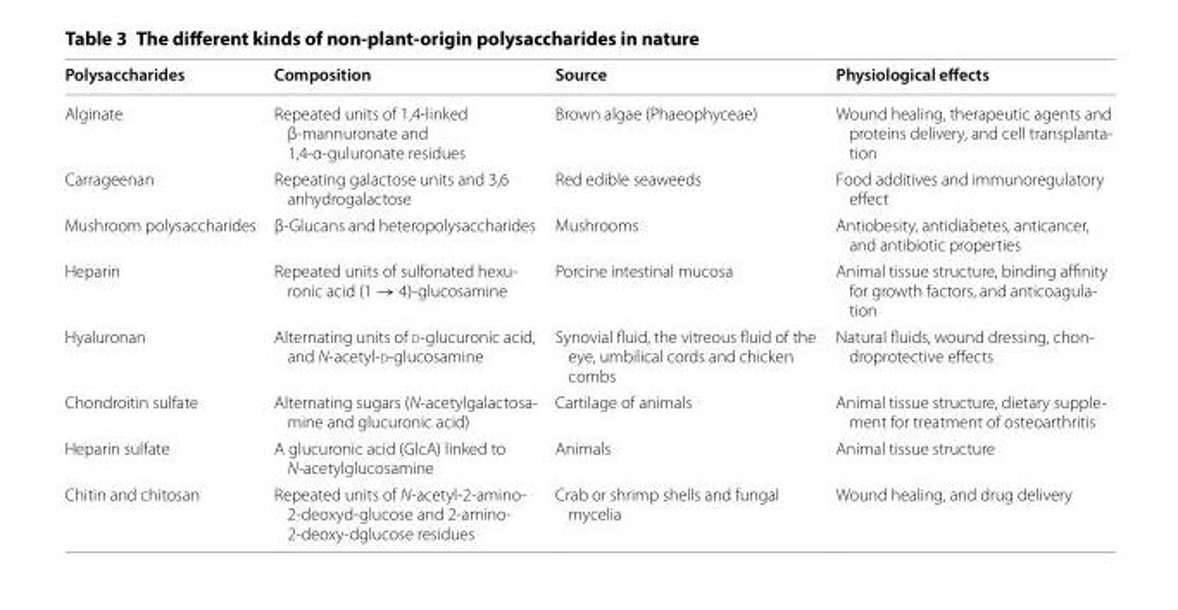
<table><thead><tr><td>Polysaccharides</td><td>Composition</td><td>Source</td><td>Physiological effects</td></tr></thead><tbody><tr><td>Alginate</td><td>Repeated units of 1,4-linked β-mannuronate and 1,4-α-guluronate residues</td><td>Brown algae (Phaeophyceae)</td><td>Wound healing, therapeutic agents and proteins delivery, and cell transplanta- tion</td></tr><tr><td>Carrageenan</td><td>Repeating galactose units and 3,6 anhydrogalactose</td><td>Red edible seaweeds</td><td>Food additives and immunoregulatory effect</td></tr><tr><td>Mushroom polysaccharides</td><td>β-Glucans and heteropolysaccharides</td><td>Mushrooms</td><td>Antiobesity, antidiabetes, anticancer, and antibiotic properties</td></tr><tr><td>Heparin</td><td>Repeated units of sulfonated hexu- ronic acid (1 → 4)-glucosamine</td><td>Porcine intestinal mucosa</td><td>Animal tissue structure, binding affinity for growth factors, and anticoagula- tion</td></tr><tr><td>Hyaluronan</td><td>Alternating units of d-glucuronic acid, and N-acetyl-d-glucosamine</td><td>Synovial fluid, the vitreous fluid of the eye, umbilical cords and chicken combs</td><td>Natural fluids, wound dressing, chon- droprotective effects</td></tr><tr><td>Chondroitin sulfate</td><td>Alternating sugars (N-acetylgalactosa- mine and glucuronic acid)</td><td>Cartilage of animals</td><td>Animal tissue structure, dietary supple- ment for treatment of osteoarthritis</td></tr><tr><td>Heparin sulfate</td><td>A glucuronic acid (GlcA) linked to N-acetylglucosamine</td><td>Animals</td><td>Animal tissue structure</td></tr><tr><td>Chitin and chitosan</td><td>Repeated units of N-acetyl-2-amino- 2-deoxyd-glucose and 2-amino- 2-deoxy-dglucose residues</td><td>Crab or shrimp shells and fungal mycelia</td><td>Wound healing, and drug delivery</td></tr></tbody></table>